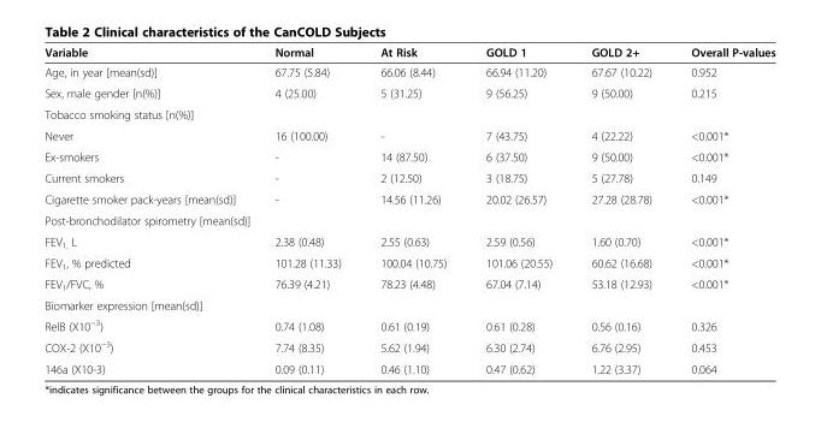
<table><thead><tr><td>Variable</td><td>Normal</td><td>At Risk</td><td>GOLD 1</td><td>GOLD 2+</td><td>Overall P-values</td></tr></thead><tbody><tr><td>Age, in year [mean(sd)]</td><td>67.75 (5.84)</td><td>66.06 (8.44)</td><td>66.94 (11.20)</td><td>67.67 (10.22)</td><td>0.952</td></tr><tr><td>Sex, male gender [n(%)]</td><td>4 (25.00)</td><td>5 (31.25)</td><td>9 (56.25)</td><td>9 (50.00)</td><td>0.215</td></tr><tr><td colspan="6">Tobacco smoking status [n(%)]</td></tr><tr><td>Never</td><td>16 (100.00)</td><td>-</td><td>7 (43.75)</td><td>4 (22.22)</td><td>&lt;0.001*</td></tr><tr><td>Ex-smokers</td><td>-</td><td>14 (87.50)</td><td>6 (37.50)</td><td>9 (50.00)</td><td>&lt;0.001*</td></tr><tr><td>Current smokers</td><td>-</td><td>2 (12.50)</td><td>3 (18.75)</td><td>5 (27.78)</td><td>0.149</td></tr><tr><td>Cigarette smoker pack-years [mean(sd)]</td><td>-</td><td>14.56 (11.26)</td><td>20.02 (26.57)</td><td>27.28 (28.78)</td><td>&lt;0.001*</td></tr><tr><td colspan="6">Post-bronchodilator spirometry [mean(sd)]</td></tr><tr><td>FEV<sub>1,</sub> L</td><td>2.38 (0.48)</td><td>2.55 (0.63)</td><td>2.59 (0.56)</td><td>1.60 (0.70)</td><td>&lt;0.001*</td></tr><tr><td>FEV<sub>1</sub>, % predicted</td><td>101.28 (11.33)</td><td>100.04 (10.75)</td><td>101.06 (20.55)</td><td>60.62 (16.68)</td><td>&lt;0.001*</td></tr><tr><td>FEV<sub>1</sub>/FVC, %</td><td>76.39 (4.21)</td><td>78.23 (4.48)</td><td>67.04 (7.14)</td><td>53.18 (12.93)</td><td>&lt;0.001*</td></tr><tr><td colspan="6">Biomarker expression [mean(sd)]</td></tr><tr><td>RelB (X10<sup>−3</sup>)</td><td>0.74 (1.08)</td><td>0.61 (0.19)</td><td>0.61 (0.28)</td><td>0.56 (0.16)</td><td>0.326</td></tr><tr><td>COX-2 (X10<sup>−3</sup>)</td><td>7.74 (8.35)</td><td>5.62 (1.94)</td><td>6.30 (2.74)</td><td>6.76 (2.95)</td><td>0.453</td></tr><tr><td>146a (X10-3)</td><td>0.09 (0.11)</td><td>0.46 (1.10)</td><td>0.47 (0.62)</td><td>1.22 (3.37)</td><td>0.064</td></tr></tbody></table>